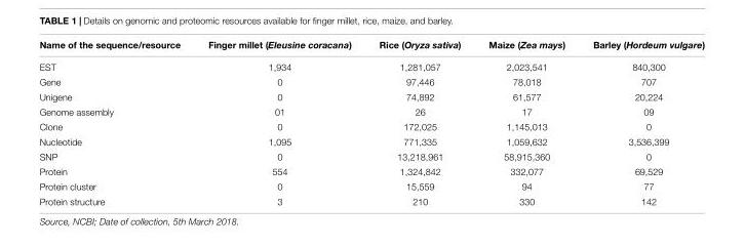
<table><thead><tr><td>Name of the sequence/resource</td><td>Finger millet (Eleusine coracana)</td><td>Rice (Oryza sativa)</td><td>Maize (Zea mays)</td><td>Barley (Hordeum vulgare)</td></tr></thead><tbody><tr><td>EST</td><td>1,934</td><td>1,281,057</td><td>2,023,541</td><td>840,300</td></tr><tr><td>Gene</td><td>0</td><td>97,446</td><td>78,018</td><td>707</td></tr><tr><td>Unigene</td><td>0</td><td>74,892</td><td>61,577</td><td>20,224</td></tr><tr><td>Genome assembly</td><td>01</td><td>26</td><td>17</td><td>09</td></tr><tr><td>Clone</td><td>0</td><td>172,025</td><td>1,145,013</td><td>0</td></tr><tr><td>Nucleotide</td><td>1,095</td><td>771,335</td><td>1,059,632</td><td>3,536,399</td></tr><tr><td>SNP</td><td>0</td><td>13,218,961</td><td>58,915,360</td><td>0</td></tr><tr><td>Protein</td><td>554</td><td>1,324,842</td><td>332,077</td><td>69,529</td></tr><tr><td>Protein cluster</td><td>0</td><td>15,559</td><td>94</td><td>77</td></tr><tr><td>Protein structure</td><td>3</td><td>210</td><td>330</td><td>142</td></tr></tbody></table>